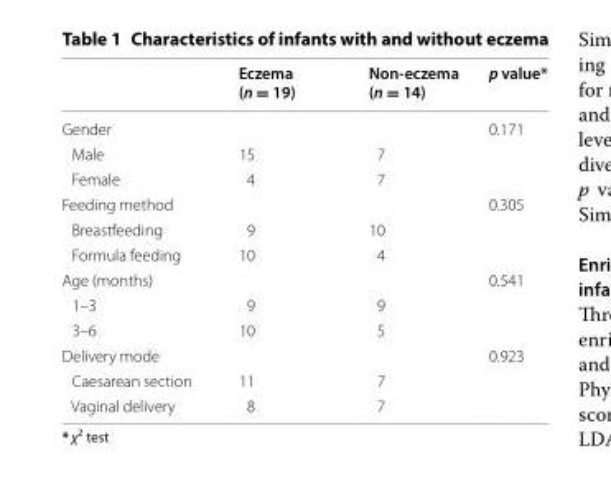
<table><thead><tr><td></td><td>Eczema (n = 19)</td><td>Non‑eczema (n = 14)</td><td>p value*</td></tr></thead><tbody><tr><td colspan="3">Gender</td><td>0.171</td></tr><tr><td>Male</td><td>15</td><td>7</td><td></td></tr><tr><td>Female</td><td>4</td><td>7</td><td></td></tr><tr><td colspan="3">Feeding method</td><td>0.305</td></tr><tr><td>Breastfeeding</td><td>9</td><td>10</td><td></td></tr><tr><td>Formula feeding</td><td>10</td><td>4</td><td></td></tr><tr><td colspan="3">Age (months)</td><td>0.541</td></tr><tr><td>1–3</td><td>9</td><td>9</td><td></td></tr><tr><td>3–6</td><td>10</td><td>5</td><td></td></tr><tr><td colspan="3">Delivery mode</td><td>0.923</td></tr><tr><td>Caesarean section</td><td>11</td><td>7</td><td></td></tr><tr><td>Vaginal delivery</td><td>8</td><td>7</td><td></td></tr></tbody></table>